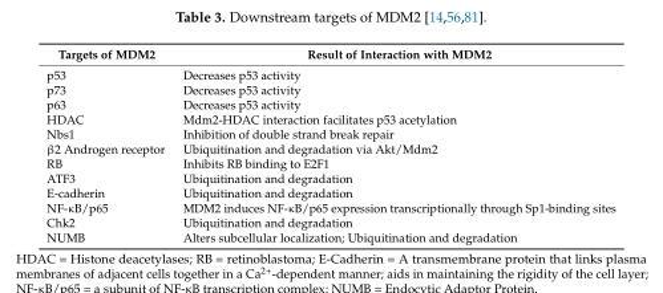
<table><thead><tr><td>Targets of MDM2</td><td>Result of Interaction with MDM2</td></tr></thead><tbody><tr><td>p53</td><td>Decreases p53 activity</td></tr><tr><td>p73</td><td>Decreases p53 activity</td></tr><tr><td>p63</td><td>Decreases p53 activity</td></tr><tr><td>HDAC</td><td>Mdm2-HDAC interaction facilitates p53 acetylation</td></tr><tr><td>Nbs1</td><td>Inhibition of double strand break repair</td></tr><tr><td>β2 Androgen receptor</td><td>Ubiquitination and degradation via Akt/Mdm2</td></tr><tr><td>RB</td><td>Inhibits RB binding to E2F1</td></tr><tr><td>ATF3</td><td>Ubiquitination and degradation</td></tr><tr><td>E-cadherin</td><td>Ubiquitination and degradation</td></tr><tr><td>NF-κB/p65</td><td>MDM2 induces NF-κB/p65 expression transcriptionally through Sp1-binding sites</td></tr><tr><td>Chk2</td><td>Ubiquitination and degradation</td></tr><tr><td>NUMB</td><td>Alters subcellular localization; Ubiquitination and degradation</td></tr></tbody></table>